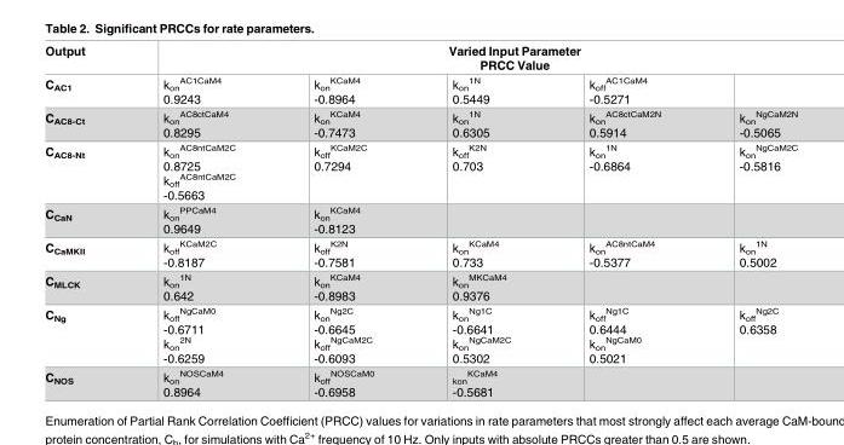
<table><thead><tr><td rowspan="3">Output C<sub>AC1</sub></td><td rowspan="2" colspan="5">Varied Input Parameter PRCC Value</td></tr><tr></tr><tr><td>k<sub>on</sub> <sup>AC1CaM4</sup> 0.9243</td><td>k<sub>on</sub> <sup>KCaM4</sup> -0.8964</td><td>k<sub>on</sub> <sup>1N</sup> 0.5449</td><td>k<sub>off</sub> <sup>AC1CaM4</sup> -0.5271</td><td></td></tr></thead><tbody><tr><td>C<sub>AC8-Ct</sub></td><td>k<sub>on</sub> <sup>AC8ctCaM4</sup> 0.8295</td><td>k<sub>on</sub> <sup>KCaM4</sup> -0.7473</td><td>k<sub>on</sub> <sup>1N</sup> 0.6305</td><td>k<sub>on</sub> <sup>AC8ctCaM2N</sup> 0.5914</td><td>k<sub>on</sub> <sup>NgCaM2N</sup> -0.5065</td></tr><tr><td>C<sub>AC8-Nt</sub></td><td>k<sub>on</sub> <sup>AC8ntCaM2C</sup> 0.8725 k<sub>off</sub> <sup>AC8ntCaM2C</sup> -0.5663</td><td>k<sub>off</sub> <sup>KCaM2C</sup> 0.7294</td><td>k<sub>off</sub> <sup>K2N</sup> 0.703</td><td>k<sub>on</sub> <sup>1N</sup> -0.6864</td><td>k<sub>on</sub> <sup>NgCaM2C</sup> -0.5816</td></tr><tr><td>C<sub>CaN</sub></td><td>k<sub>on</sub> <sup>PPCaM4</sup> 0.9649</td><td>k<sub>on</sub> <sup>KCaM4</sup> -0.8123</td><td></td><td></td><td></td></tr><tr><td>C<sub>CaMKII</sub></td><td>k<sub>off</sub> <sup>KCaM2C</sup> -0.8187</td><td>k<sub>off</sub> <sup>K2N</sup> -0.7581</td><td>k<sub>on</sub> <sup>KCaM4</sup> 0.733</td><td>k<sub>on</sub> <sup>AC8ntCaM4</sup> -0.5377</td><td>k<sub>on</sub> <sup>1N</sup> 0.5002</td></tr><tr><td>C<sub>MLCK</sub></td><td>k<sub>on</sub> <sup>1N</sup> 0.642</td><td>k<sub>on</sub> <sup>KCaM4</sup> -0.8983</td><td>k<sub>on</sub> <sup>MKCaM4</sup> 0.9376</td><td></td><td></td></tr><tr><td>C<sub>Ng</sub></td><td>k<sub>off</sub> <sup>NgCaM0</sup> -0.6711 k<sub>on</sub> <sup>2N</sup> -0.6259</td><td>k<sub>on</sub> <sup>Ng2C</sup> -0.6645 k<sub>off</sub> <sup>NgCaM2C</sup> -0.6093</td><td>k<sub>on</sub> <sup>Ng1C</sup> -0.6641 k<sub>on</sub> <sup>NgCaM2C</sup> 0.5302</td><td>k<sub>off</sub> <sup>Ng1C</sup> 0.6444 k<sub>on</sub> <sup>NgCaM0</sup> 0.5021</td><td>k<sub>off</sub> <sup>Ng2C</sup> 0.6358</td></tr><tr><td>C<sub>NOS</sub></td><td>k<sub>on</sub> <sup>NOSCaM4</sup> 0.8964</td><td>k<sub>off</sub> <sup>NOSCaM0</sup> -0.6958</td><td><sub>kon</sub> <sup>KCaM4</sup> -0.5681</td><td></td><td></td></tr></tbody></table>